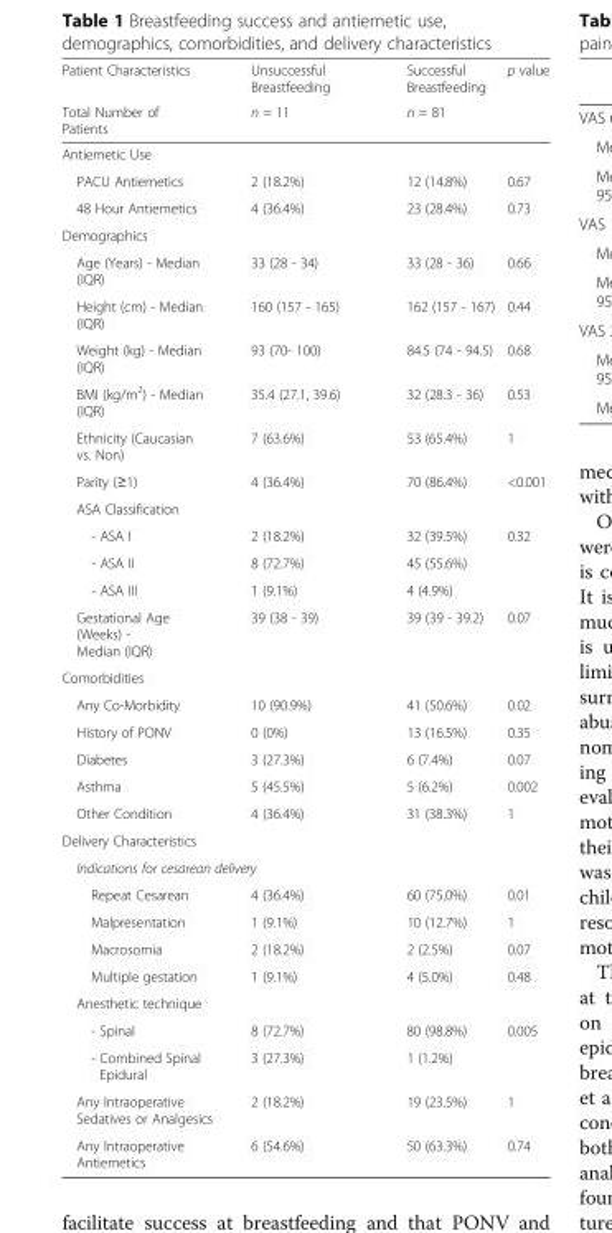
<table><thead><tr><td rowspan="2">Patient Characteristics Total Number of Patients</td><td rowspan="2">Unsuccessful Breastfeeding n = 11</td><td rowspan="2">Successful Breastfeeding n = 81</td><td rowspan="2">p value</td></tr><tr></tr></thead><tbody><tr><td colspan="4">Antiemetic Use</td></tr><tr><td>PACU Antiemetics</td><td>2 (18.2%)</td><td>12 (14.8%)</td><td>0.67</td></tr><tr><td>48 Hour Antiemetics</td><td>4 (36.4%)</td><td>23 (28.4%)</td><td>0.73</td></tr><tr><td colspan="4">Demographics</td></tr><tr><td>Age (Years) - Median (IQR)</td><td>33 (28 - 34)</td><td>33 (28 - 36)</td><td>0.66</td></tr><tr><td>Height (cm) - Median (IQR)</td><td>160 (157 - 165)</td><td>162 (157 - 167)</td><td>0.44</td></tr><tr><td>Weight (kg) - Median (IQR)</td><td>93 (70- 100)</td><td>84.5 (74 - 94.5)</td><td>0.68</td></tr><tr><td>BMI (kg/m<sup>2</sup>) - Median (IQR)</td><td>35.4 (27.1, 39.6)</td><td>32 (28.3 - 36)</td><td>0.53</td></tr><tr><td>Ethnicity (Caucasian vs. Non)</td><td>7 (63.6%)</td><td>53 (65.4%)</td><td>1</td></tr><tr><td>Parity (≥1)</td><td>4 (36.4%)</td><td>70 (86.4%)</td><td>&lt;0.001</td></tr><tr><td colspan="4">ASA Classification</td></tr><tr><td>- ASA I</td><td>2 (18.2%)</td><td>32 (39.5%)</td><td rowspan="3">0.32</td></tr><tr><td>- ASA II</td><td>8 (72.7%)</td><td>45 (55.6%)</td></tr><tr><td>- ASA III</td><td>1 (9.1%)</td><td>4 (4.9%)</td></tr><tr><td>Gestational Age (Weeks) - Median (IQR)</td><td>39 (38 - 39)</td><td>39 (39 - 39.2)</td><td>0.07</td></tr><tr><td colspan="4">Comorbidities</td></tr><tr><td>Any Co-Morbidity</td><td>10 (90.9%)</td><td>41 (50.6%)</td><td>0.02</td></tr><tr><td>History of PONV</td><td>0 (0%)</td><td>13 (16.5%)</td><td>0.35</td></tr><tr><td>Diabetes</td><td>3 (27.3%)</td><td>6 (7.4%)</td><td>0.07</td></tr><tr><td>Asthma</td><td>5 (45.5%)</td><td>5 (6.2%)</td><td>0.002</td></tr><tr><td>Other Condition</td><td>4 (36.4%)</td><td>31 (38.3%)</td><td>1</td></tr><tr><td colspan="4">Delivery Characteristics</td></tr><tr><td colspan="4">Indications for cesarean delivery</td></tr><tr><td>Repeat Cesarean</td><td>4 (36.4%)</td><td>60 (75.0%)</td><td>0.01</td></tr><tr><td>Malpresentation</td><td>1 (9.1%)</td><td>10 (12.7%)</td><td>1</td></tr><tr><td>Macrosomia</td><td>2 (18.2%)</td><td>2 (2.5%)</td><td>0.07</td></tr><tr><td>Multiple gestation</td><td>1 (9.1%)</td><td>4 (5.0%)</td><td>0.48</td></tr><tr><td colspan="4">Anesthetic technique</td></tr><tr><td>- Spinal</td><td>8 (72.7%)</td><td>80 (98.8%)</td><td rowspan="2">0.005</td></tr><tr><td>- Combined Spinal Epidural</td><td>3 (27.3%)</td><td>1 (1.2%)</td></tr><tr><td>Any Intraoperative Sedatives or Analgesics</td><td>2 (18.2%)</td><td>19 (23.5%)</td><td>1</td></tr><tr><td>Any Intraoperative Antiemetics</td><td>6 (54.6%)</td><td>50 (63.3%)</td><td>0.74</td></tr></tbody></table>